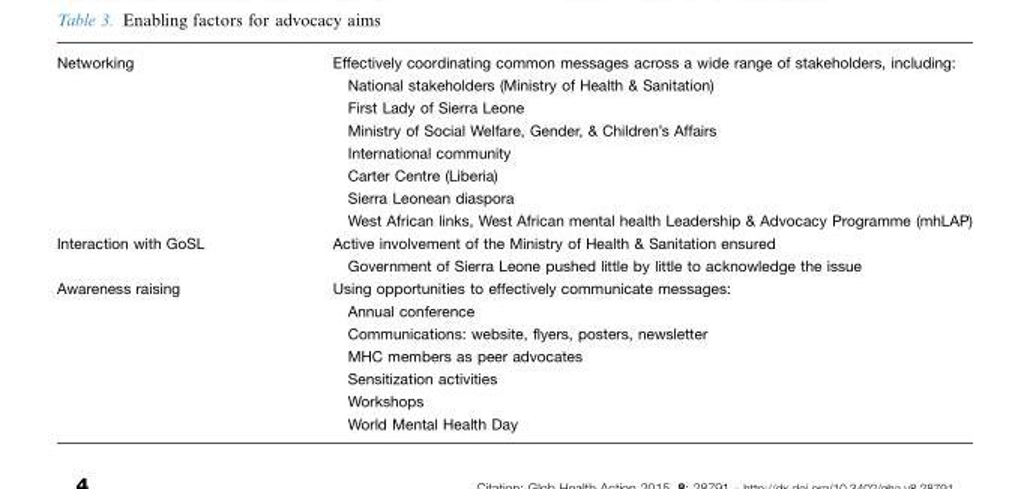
<table><tbody><tr><td>Networking</td><td>Effectively coordinating common messages across a wide range of stakeholders, including: National stakeholders (Ministry of Health &amp; Sanitation) First Lady of Sierra Leone Ministry of Social Welfare, Gender, &amp; Children’s Affairs International community Carter Centre (Liberia) Sierra Leonean diaspora West African links, West African mental health Leadership &amp; Advocacy Programme (mhLAP)</td></tr><tr><td>Interaction with GoSL</td><td>Active involvement of the Ministry of Health &amp; Sanitation ensured Government of Sierra Leone pushed little by little to acknowledge the issue</td></tr><tr><td>Awareness raising</td><td>Using opportunities to effectively communicate messages: Annual conference Communications: website, flyers, posters, newsletter MHC members as peer advocates Sensitization activities Workshops World Mental Health Day</td></tr></tbody></table>